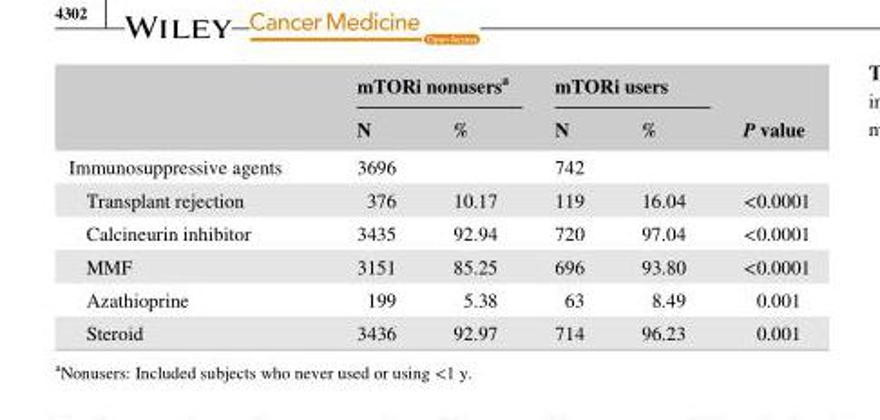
<table><thead><tr><td rowspan="2"></td><td colspan="2">mTORi nonusers<sup>a</sup></td><td colspan="2">mTORi users</td><td rowspan="2">P value</td></tr><tr><td>N</td><td>%</td><td>N</td><td>%</td></tr></thead><tbody><tr><td>Immunosuppressive agents</td><td>3696</td><td></td><td>742</td><td></td><td></td></tr><tr><td>Transplant rejection</td><td>376</td><td>10.17</td><td>119</td><td>16.04</td><td>&lt;0.0001</td></tr><tr><td>Calcineurin inhibitor</td><td>3435</td><td>92.94</td><td>720</td><td>97.04</td><td>&lt;0.0001</td></tr><tr><td>MMF</td><td>3151</td><td>85.25</td><td>696</td><td>93.80</td><td>&lt;0.0001</td></tr><tr><td>Azathioprine</td><td>199</td><td>5.38</td><td>63</td><td>8.49</td><td>0.001</td></tr><tr><td>Steroid</td><td>3436</td><td>92.97</td><td>714</td><td>96.23</td><td>0.001</td></tr></tbody></table>